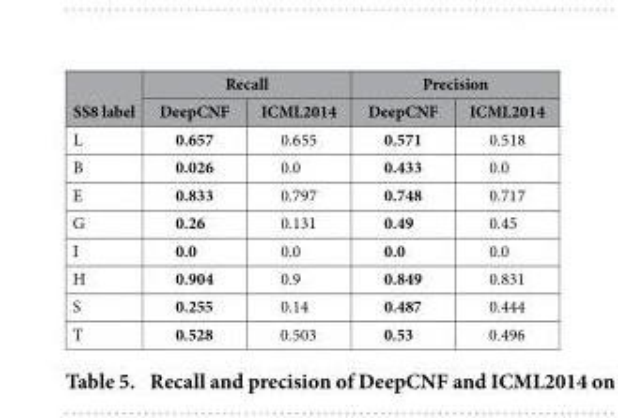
<table><thead><tr><td rowspan="2">SS8 label</td><td colspan="2">Recall</td><td colspan="2">Precision</td></tr><tr><td>DeepCNF</td><td>ICML2014</td><td>DeepCNF</td><td>ICML2014</td></tr></thead><tbody><tr><td>L</td><td>0.657</td><td>0.655</td><td>0.571</td><td>0.518</td></tr><tr><td>B</td><td>0.026</td><td>0.0</td><td>0.433</td><td>0.0</td></tr><tr><td>E</td><td>0.833</td><td>0.797</td><td>0.748</td><td>0.717</td></tr><tr><td>G</td><td>0.26</td><td>0.131</td><td>0.49</td><td>0.45</td></tr><tr><td>I</td><td>0.0</td><td>0.0</td><td>0.0</td><td>0.0</td></tr><tr><td>H</td><td>0.904</td><td>0.9</td><td>0.849</td><td>0.831</td></tr><tr><td>S</td><td>0.255</td><td>0.14</td><td>0.487</td><td>0.444</td></tr><tr><td>T</td><td>0.528</td><td>0.503</td><td>0.53</td><td>0.496</td></tr></tbody></table>